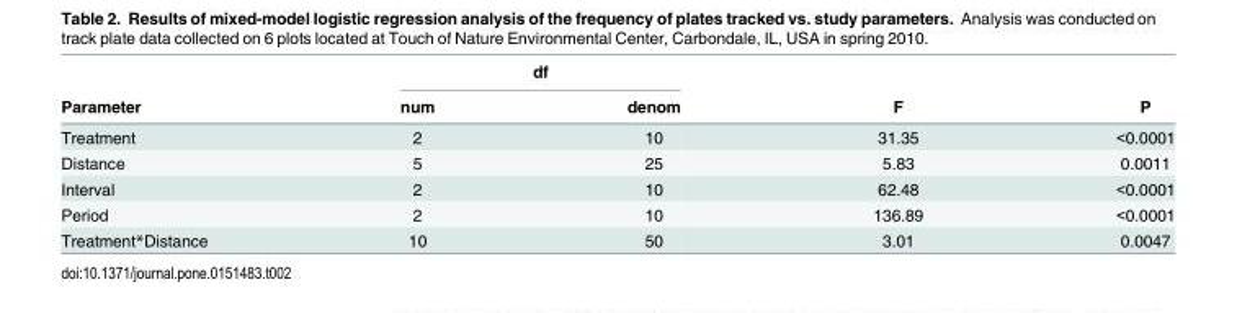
<table><thead><tr><td rowspan="2">Parameter</td><td colspan="2">df</td><td rowspan="2">F</td><td rowspan="2">P</td></tr><tr><td>num</td><td>denom</td></tr></thead><tbody><tr><td>Treatment</td><td>2</td><td>10</td><td>31.35</td><td>&lt;0.0001</td></tr><tr><td>Distance</td><td>5</td><td>25</td><td>5.83</td><td>0.0011</td></tr><tr><td>Interval</td><td>2</td><td>10</td><td>62.48</td><td>&lt;0.0001</td></tr><tr><td>Period</td><td>2</td><td>10</td><td>136.89</td><td>&lt;0.0001</td></tr><tr><td>Treatment*Distance</td><td>10</td><td>50</td><td>3.01</td><td>0.0047</td></tr></tbody></table>